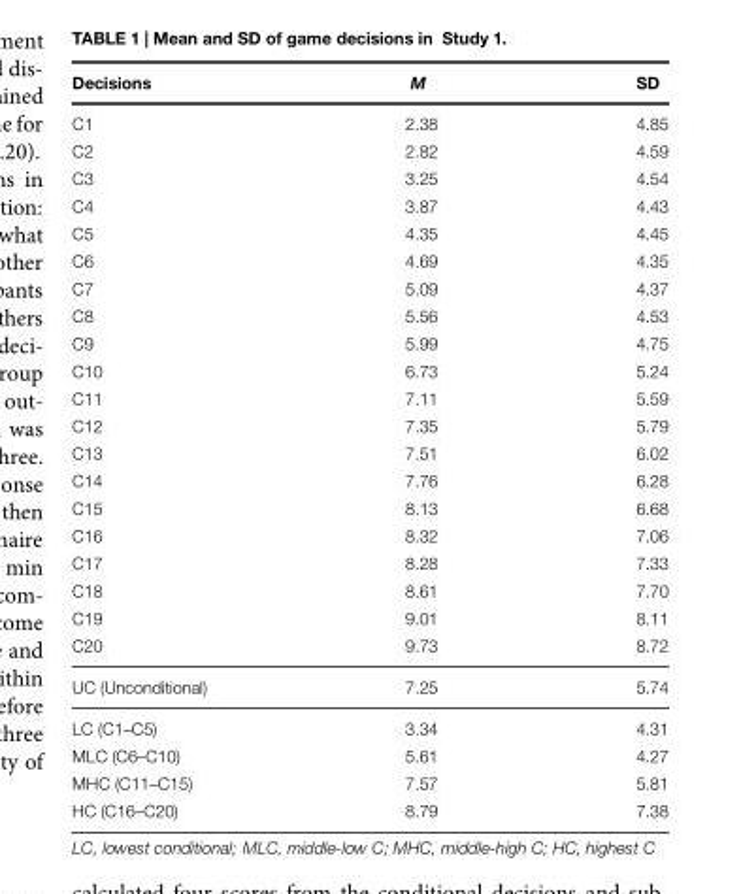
<table><thead><tr><td>Decisions</td><td>M</td><td>SD</td></tr></thead><tbody><tr><td>C1</td><td>2.38</td><td>4.85</td></tr><tr><td>C2</td><td>2.82</td><td>4.59</td></tr><tr><td>C3</td><td>3.25</td><td>4.54</td></tr><tr><td>C4</td><td>3.87</td><td>4.43</td></tr><tr><td>C5</td><td>4.35</td><td>4.45</td></tr><tr><td>C6</td><td>4.69</td><td>4.35</td></tr><tr><td>C7</td><td>5.09</td><td>4.37</td></tr><tr><td>C8</td><td>5.56</td><td>4.53</td></tr><tr><td>C9</td><td>5.99</td><td>4.75</td></tr><tr><td>C10</td><td>6.73</td><td>5.24</td></tr><tr><td>C11</td><td>7.11</td><td>5.59</td></tr><tr><td>C12</td><td>7.35</td><td>5.79</td></tr><tr><td>C13</td><td>7.51</td><td>6.02</td></tr><tr><td>C14</td><td>7.76</td><td>6.28</td></tr><tr><td>C15</td><td>8.13</td><td>6.68</td></tr><tr><td>C16</td><td>8.32</td><td>7.06</td></tr><tr><td>C17</td><td>8.28</td><td>7.33</td></tr><tr><td>C18</td><td>8.61</td><td>7.70</td></tr><tr><td>C19</td><td>9.01</td><td>8.11</td></tr><tr><td>C20</td><td>9.73</td><td>8.72</td></tr><tr><td>UC (Unconditional)</td><td>7.25</td><td>5.74</td></tr><tr><td>LC (C1–C5)</td><td>3.34</td><td>4.31</td></tr><tr><td>MLC (C6–C10)</td><td>5.61</td><td>4.27</td></tr><tr><td>MHC (C11–C15)</td><td>7.57</td><td>5.81</td></tr><tr><td>HC (C16–C20)</td><td>8.79</td><td>7.38</td></tr></tbody></table>